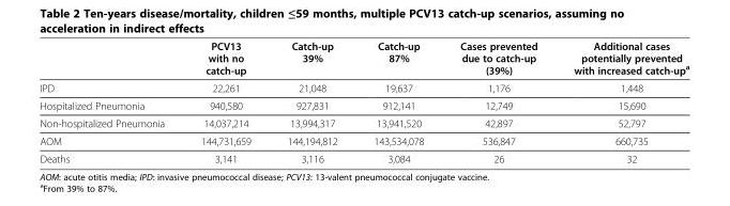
<table><thead><tr><td></td><td>PCV13 with no catch-up</td><td>Catch-up 39%</td><td>Catch-up 87%</td><td>Cases prevented due to catch-up (39%)</td><td>Additional cases potentially prevented with increased catch-up<sup>a</sup></td></tr></thead><tbody><tr><td>IPD</td><td>22,261</td><td>21,048</td><td>19,637</td><td>1,176</td><td>1,448</td></tr><tr><td>Hospitalized Pneumonia</td><td>940,580</td><td>927,831</td><td>912,141</td><td>12,749</td><td>15,690</td></tr><tr><td>Non-hospitalized Pneumonia</td><td>14,037,214</td><td>13,994,317</td><td>13,941,520</td><td>42,897</td><td>52,797</td></tr><tr><td>AOM</td><td>144,731,659</td><td>144,194,812</td><td>143,534,078</td><td>536,847</td><td>660,735</td></tr><tr><td>Deaths</td><td>3,141</td><td>3,116</td><td>3,084</td><td>26</td><td>32</td></tr></tbody></table>